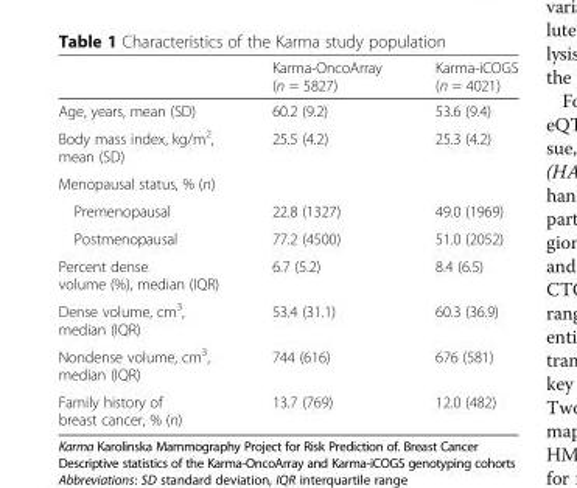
<table><thead><tr><td></td><td>Karma-OncoArray (n = 5827)</td><td>Karma-iCOGS (n = 4021)</td></tr></thead><tbody><tr><td>Age, years, mean (SD)</td><td>60.2 (9.2)</td><td>53.6 (9.4)</td></tr><tr><td>Body mass index, kg/m<sup>2</sup>, mean (SD)</td><td>25.5 (4.2)</td><td>25.3 (4.2)</td></tr><tr><td colspan="3">Menopausal status, % (n)</td></tr><tr><td>Premenopausal</td><td>22.8 (1327)</td><td>49.0 (1969)</td></tr><tr><td>Postmenopausal</td><td>77.2 (4500)</td><td>51.0 (2052)</td></tr><tr><td>Percent dense volume (%), median (IQR)</td><td>6.7 (5.2)</td><td>8.4 (6.5)</td></tr><tr><td>Dense volume, cm<sup>3</sup>, median (IQR)</td><td>53.4 (31.1)</td><td>60.3 (36.9)</td></tr><tr><td>Nondense volume, cm<sup>3</sup>, median (IQR)</td><td>744 (616)</td><td>676 (581)</td></tr><tr><td>Family history of breast cancer, % (n)</td><td>13.7 (769)</td><td>12.0 (482)</td></tr></tbody></table>